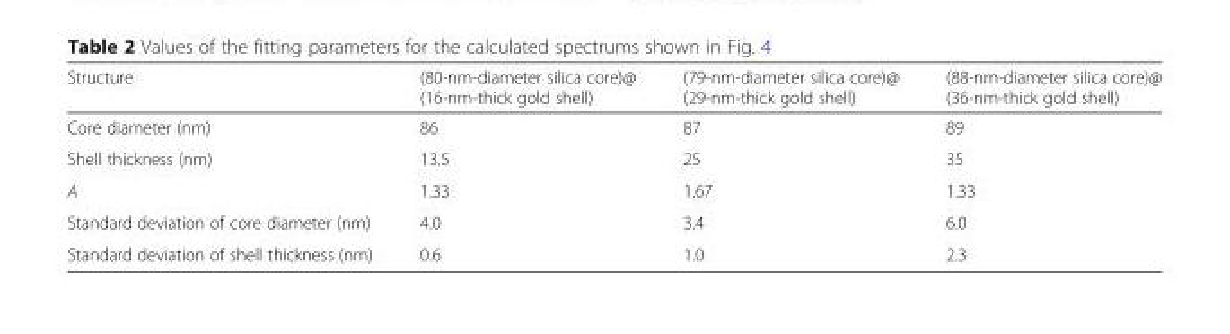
<table><thead><tr><td>Structure</td><td>(80-nm-diameter silica core)@ (16-nm-thick gold shell)</td><td>(79-nm-diameter silica core)@ (29-nm-thick gold shell)</td><td>(88-nm-diameter silica core)@ (36-nm-thick gold shell)</td></tr></thead><tbody><tr><td>Core diameter (nm)</td><td>86</td><td>87</td><td>89</td></tr><tr><td>Shell thickness (nm)</td><td>13.5</td><td>25</td><td>35</td></tr><tr><td>A</td><td>1.33</td><td>1.67</td><td>1.33</td></tr><tr><td>Standard deviation of core diameter (nm)</td><td>4.0</td><td>3.4</td><td>6.0</td></tr><tr><td>Standard deviation of shell thickness (nm)</td><td>0.6</td><td>1.0</td><td>2.3</td></tr></tbody></table>